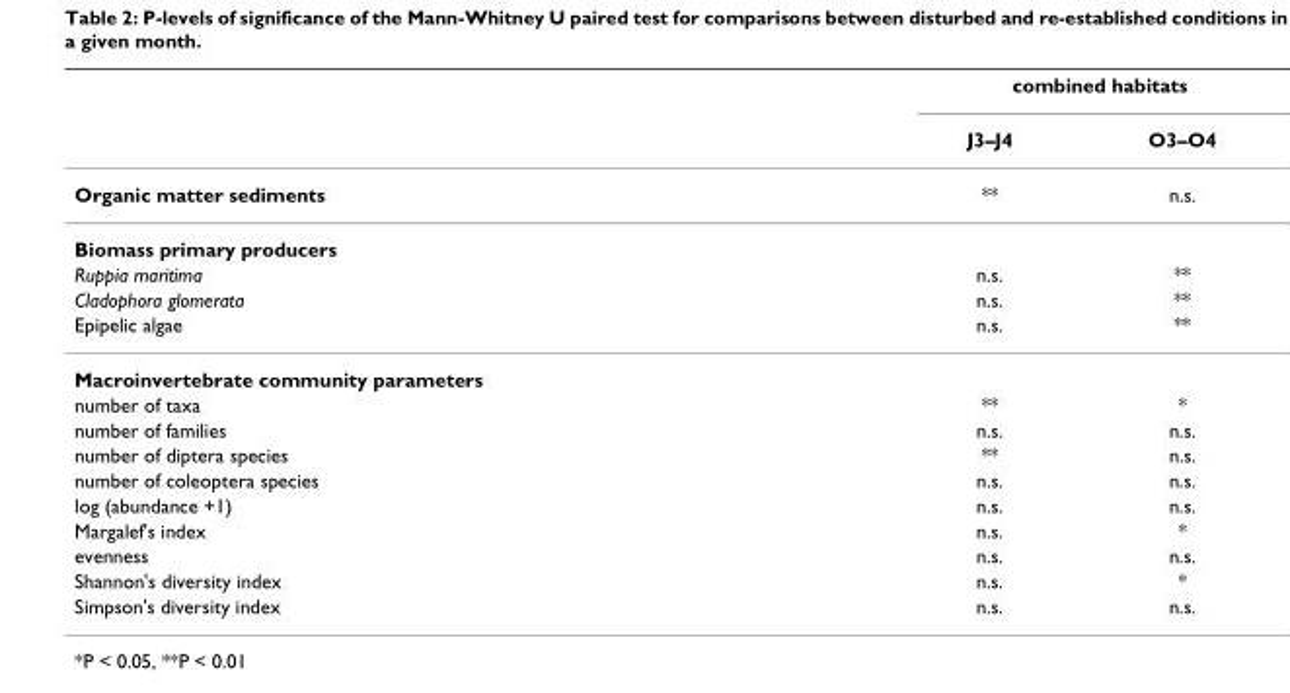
<table><thead><tr><td rowspan="2"></td><td colspan="2">combined habitats</td></tr><tr><td>J3–J4</td><td>O3–O4</td></tr></thead><tbody><tr><td>Organic matter sediments</td><td>**</td><td>n.s.</td></tr><tr><td colspan="3">Biomass primary producers</td></tr><tr><td>Ruppia maritima</td><td>n.s.</td><td>**</td></tr><tr><td>Cladophora glomerata</td><td>n.s.</td><td>**</td></tr><tr><td>Epipelic algae</td><td>n.s.</td><td>**</td></tr><tr><td colspan="3">Macroinvertebrate community parameters</td></tr><tr><td>number of taxa</td><td>**</td><td>*</td></tr><tr><td>number of families</td><td>n.s.</td><td>n.s.</td></tr><tr><td>number of diptera species</td><td>**</td><td>n.s.</td></tr><tr><td>number of coleoptera species</td><td>n.s.</td><td>n.s.</td></tr><tr><td>log (abundance +1)</td><td>n.s.</td><td>n.s.</td></tr><tr><td>Margalef&#x27;s index</td><td>n.s.</td><td>*</td></tr><tr><td>evenness</td><td>n.s.</td><td>n.s.</td></tr><tr><td>Shannon&#x27;s diversity index</td><td>n.s.</td><td>*</td></tr><tr><td>Simpson&#x27;s diversity index</td><td>n.s.</td><td>n.s.</td></tr></tbody></table>